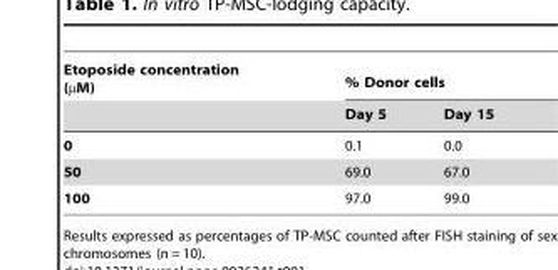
<table><thead><tr><td rowspan="2">Etoposide concentration (µM)</td><td colspan="2">% Donor cells</td></tr><tr><td>Day 5</td><td>Day 15</td></tr></thead><tbody><tr><td>0</td><td>0.1</td><td>0.0</td></tr><tr><td>50</td><td>69.0</td><td>67.0</td></tr><tr><td>100</td><td>97.0</td><td>99.0</td></tr></tbody></table>